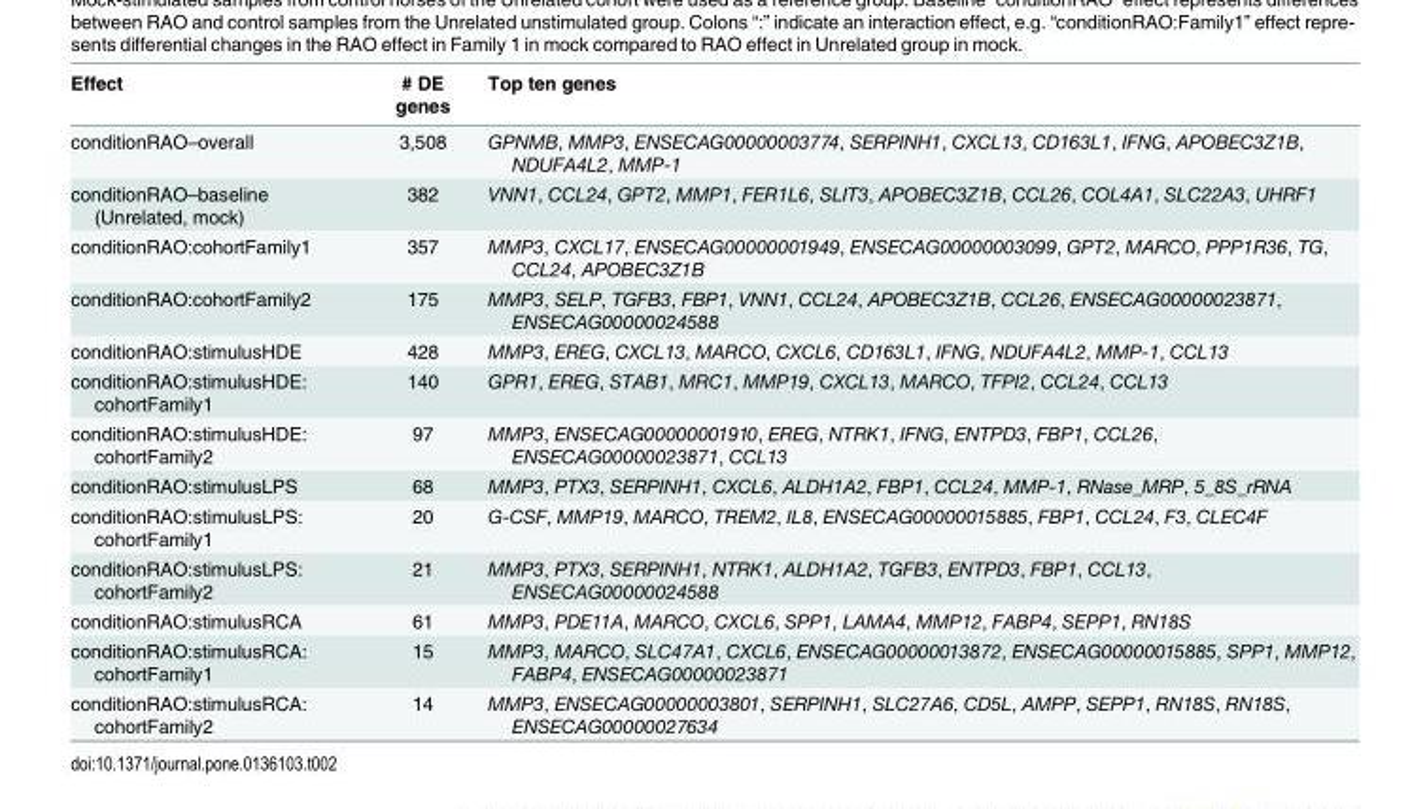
<table><thead><tr><td>Effect</td><td># DE genes</td><td>Top ten genes</td></tr></thead><tbody><tr><td>conditionRAO–overall</td><td>3,508</td><td>GPNMB, MMP3, ENSECAG00000003774, SERPINH1, CXCL13, CD163L1, IFNG, APOBEC3Z1B, NDUFA4L2, MMP-1</td></tr><tr><td>conditionRAO–baseline (Unrelated, mock)</td><td>382</td><td>VNN1, CCL24, GPT2, MMP1, FER1L6, SLIT3, APOBEC3Z1B, CCL26, COL4A1, SLC22A3, UHRF1</td></tr><tr><td>conditionRAO:cohortFamily1</td><td>357</td><td>MMP3, CXCL17, ENSECAG00000001949, ENSECAG00000003099, GPT2, MARCO, PPP1R36, TG, CCL24, APOBEC3Z1B</td></tr><tr><td>conditionRAO:cohortFamily2</td><td>175</td><td>MMP3, SELP, TGFB3, FBP1, VNN1, CCL24, APOBEC3Z1B, CCL26, ENSECAG00000023871, ENSECAG00000024588</td></tr><tr><td>conditionRAO:stimulusHDE</td><td>428</td><td>MMP3, EREG, CXCL13, MARCO, CXCL6, CD163L1, IFNG, NDUFA4L2, MMP-1, CCL13</td></tr><tr><td>conditionRAO:stimulusHDE: cohortFamily1</td><td>140</td><td>GPR1, EREG, STAB1, MRC1, MMP19, CXCL13, MARCO, TFPI2, CCL24, CCL13</td></tr><tr><td>conditionRAO:stimulusHDE: cohortFamily2</td><td>97</td><td>MMP3, ENSECAG00000001910, EREG, NTRK1, IFNG, ENTPD3, FBP1, CCL26, ENSECAG00000023871, CCL13</td></tr><tr><td>conditionRAO:stimulusLPS</td><td>68</td><td>MMP3, PTX3, SERPINH1, CXCL6, ALDH1A2, FBP1, CCL24, MMP-1, RNase_MRP, 5_8S_rRNA</td></tr><tr><td>conditionRAO:stimulusLPS: cohortFamily1</td><td>20</td><td>G-CSF, MMP19, MARCO, TREM2, IL8, ENSECAG00000015885, FBP1, CCL24, F3, CLEC4F</td></tr><tr><td>conditionRAO:stimulusLPS: cohortFamily2</td><td>21</td><td>MMP3, PTX3, SERPINH1, NTRK1, ALDH1A2, TGFB3, ENTPD3, FBP1, CCL13, ENSECAG00000024588</td></tr><tr><td>conditionRAO:stimulusRCA</td><td>61</td><td>MMP3, PDE11A, MARCO, CXCL6, SPP1, LAMA4, MMP12, FABP4, SEPP1, RN18S</td></tr><tr><td>conditionRAO:stimulusRCA: cohortFamily1</td><td>15</td><td>MMP3, MARCO, SLC47A1, CXCL6, ENSECAG00000013872, ENSECAG00000015885, SPP1, MMP12, FABP4, ENSECAG00000023871</td></tr><tr><td>conditionRAO:stimulusRCA: cohortFamily2</td><td>14</td><td>MMP3, ENSECAG00000003801, SERPINH1, SLC27A6, CD5L, AMPP, SEPP1, RN18S, RN18S, ENSECAG00000027634</td></tr></tbody></table>